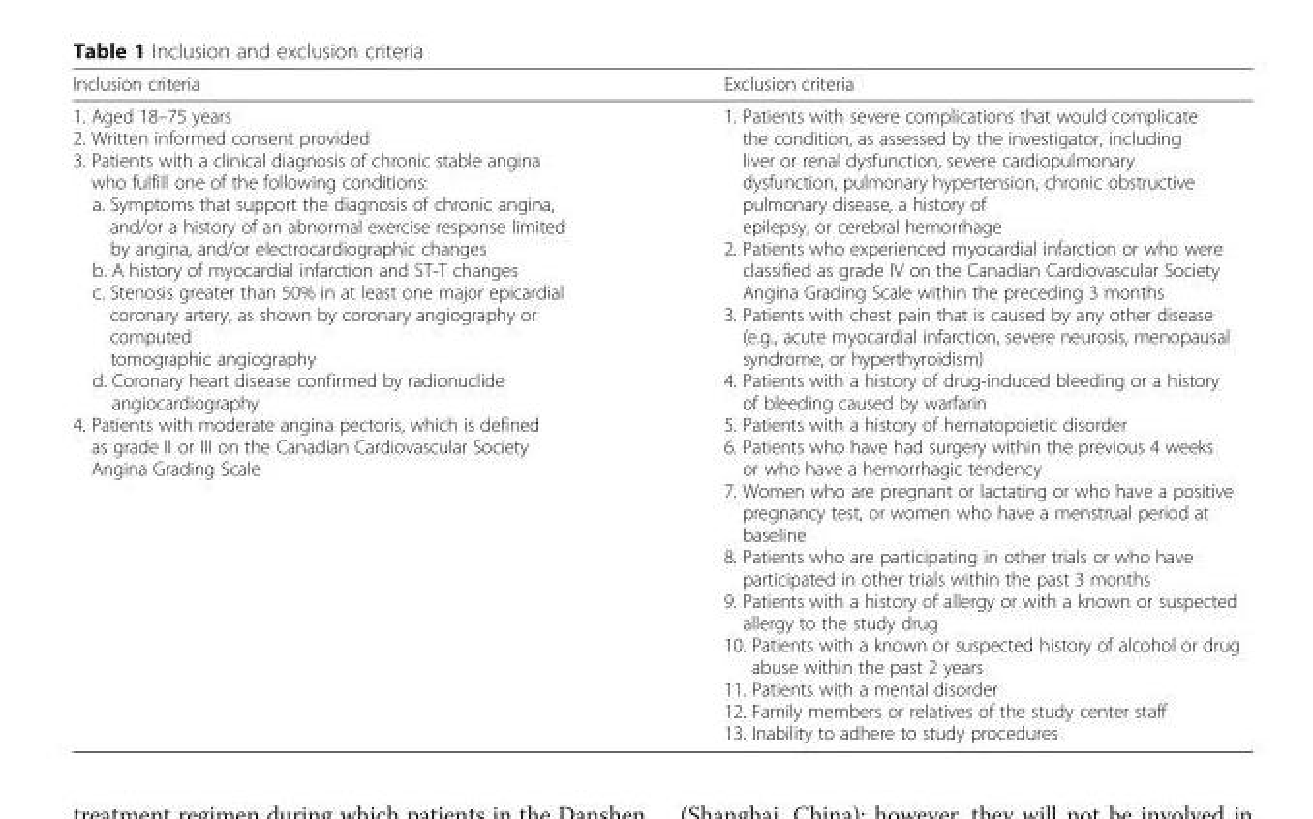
<table><thead><tr><td>Inclusion criteria</td><td>Exclusion criteria</td></tr></thead><tbody><tr><td>1. Aged 18–75 years 2. Written informed consent provided 3. Patients with a clinical diagnosis of chronic stable angina who fulfill one of the following conditions: a. Symptoms that support the diagnosis of chronic angina, and/or a history of an abnormal exercise response limited by angina, and/or electrocardiographic changes b. A history of myocardial infarction and ST-T changes c. Stenosis greater than 50% in at least one major epicardial coronary artery, as shown by coronary angiography or computed tomographic angiography d. Coronary heart disease confirmed by radionuclide angiocardiography 4. Patients with moderate angina pectoris, which is defined as grade II or III on the Canadian Cardiovascular Society Angina Grading Scale</td><td>1. Patients with severe complications that would complicate the condition, as assessed by the investigator, including liver or renal dysfunction, severe cardiopulmonary dysfunction, pulmonary hypertension, chronic obstructive pulmonary disease, a history of epilepsy, or cerebral hemorrhage 2. Patients who experienced myocardial infarction or who were classified as grade IV on the Canadian Cardiovascular Society Angina Grading Scale within the preceding 3 months 3. Patients with chest pain that is caused by any other disease (e.g., acute myocardial infarction, severe neurosis, menopausal syndrome, or hyperthyroidism) 4. Patients with a history of drug-induced bleeding or a history of bleeding caused by warfarin 5. Patients with a history of hematopoietic disorder 6. Patients who have had surgery within the previous 4 weeks or who have a hemorrhagic tendency 7. Women who are pregnant or lactating or who have a positive pregnancy test, or women who have a menstrual period at baseline 8. Patients who are participating in other trials or who have participated in other trials within the past 3 months 9. Patients with a history of allergy or with a known or suspected allergy to the study drug 10. Patients with a known or suspected history of alcohol or drug abuse within the past 2 years 11. Patients with a mental disorder 12. Family members or relatives of the study center staff 13. Inability to adhere to study procedures</td></tr></tbody></table>